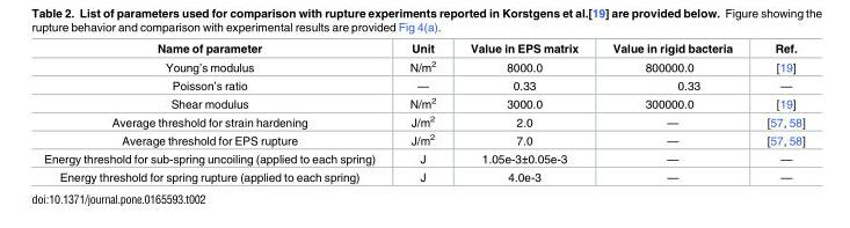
<table><thead><tr><td>Name of parameter</td><td>Unit</td><td>Value in EPS matrix</td><td>Value in rigid bacteria</td><td>Ref.</td></tr></thead><tbody><tr><td>Young’s modulus</td><td>N/m<sup>2</sup></td><td>8000.0</td><td>800000.0</td><td>[19]</td></tr><tr><td>Poisson’s ratio</td><td>—</td><td>0.33</td><td>0.33</td><td>—</td></tr><tr><td>Shear modulus</td><td>N/m<sup>2</sup></td><td>3000.0</td><td>300000.0</td><td>[19]</td></tr><tr><td>Average threshold for strain hardening</td><td>J/m<sup>2</sup></td><td>2.0</td><td>—</td><td>[57, 58]</td></tr><tr><td>Average threshold for EPS rupture</td><td>J/m<sup>2</sup></td><td>7.0</td><td>—</td><td>[57, 58]</td></tr><tr><td>Energy threshold for sub-spring uncoiling (applied to each spring)</td><td>J</td><td>1.05e-3±0.05e-3</td><td>—</td><td>—</td></tr><tr><td>Energy threshold for spring rupture (applied to each spring)</td><td>J</td><td>4.0e-3</td><td>—</td><td>—</td></tr></tbody></table>